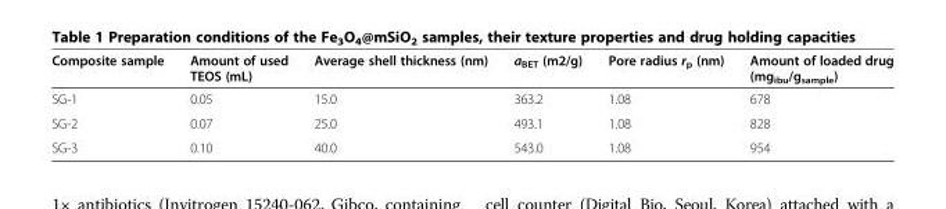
<table><thead><tr><td>Composite sample</td><td>Amount of used TEOS (mL)</td><td>Average shell thickness (nm)</td><td>a<sub>BET</sub> (m2/g)</td><td>Pore radius r<sub>p</sub> (nm)</td><td>Amount of loaded drug (mg<sub>ibu</sub>/g<sub>sample</sub>)</td></tr></thead><tbody><tr><td>SG-1</td><td>0.05</td><td>15.0</td><td>363.2</td><td>1.08</td><td>678</td></tr><tr><td>SG-2</td><td>0.07</td><td>25.0</td><td>493.1</td><td>1.08</td><td>828</td></tr><tr><td>SG-3</td><td>0.10</td><td>40.0</td><td>543.0</td><td>1.08</td><td>954</td></tr></tbody></table>